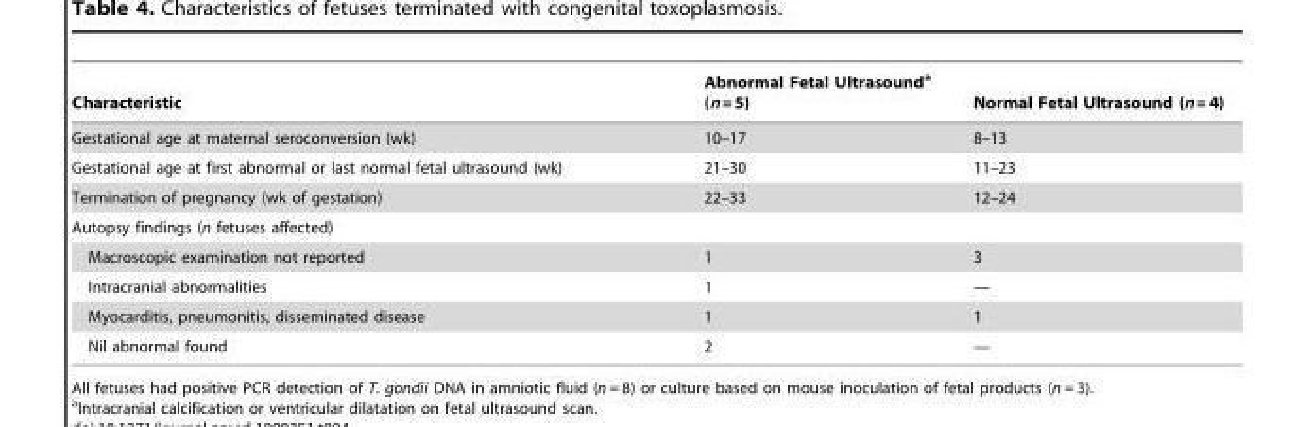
<table><thead><tr><td>Characteristic</td><td>Abnormal Fetal Ultrasound<sup>a</sup> (n = 5)</td><td>Normal Fetal Ultrasound (n = 4)</td></tr></thead><tbody><tr><td>Gestational age at maternal seroconversion (wk)</td><td>10–17</td><td>8–13</td></tr><tr><td>Gestational age at first abnormal or last normal fetal ultrasound (wk)</td><td>21–30</td><td>11–23</td></tr><tr><td>Termination of pregnancy (wk of gestation)</td><td>22–33</td><td>12–24</td></tr><tr><td colspan="3">Autopsy findings (n fetuses affected)</td></tr><tr><td>Macroscopic examination not reported</td><td>1</td><td>3</td></tr><tr><td>Intracranial abnormalities</td><td>1</td><td>—</td></tr><tr><td>Myocarditis, pneumonitis, disseminated disease</td><td>1</td><td>1</td></tr><tr><td>Nil abnormal found</td><td>2</td><td>—</td></tr></tbody></table>